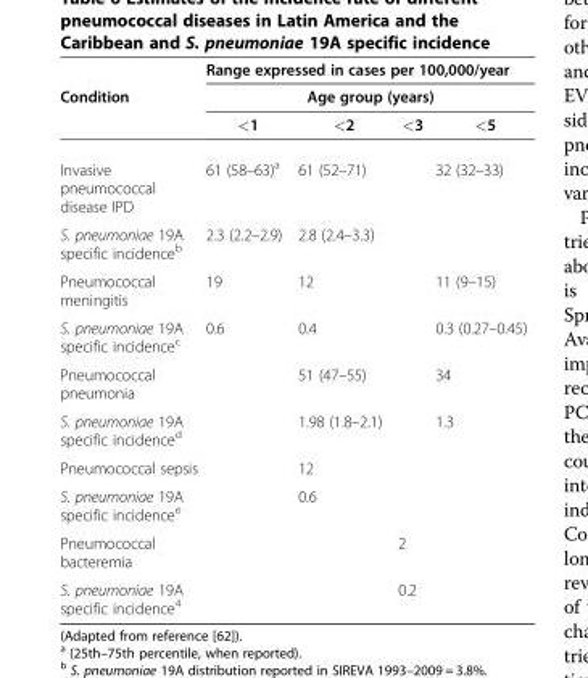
<table><thead><tr><td rowspan="3">Condition</td><td rowspan="2" colspan="4">Range expressed in cases per 100,000/year Age group (years)</td></tr><tr></tr><tr><td>&lt;1</td><td>&lt;2</td><td>&lt;3</td><td>&lt;5</td></tr></thead><tbody><tr><td>Invasive pneumococcal disease IPD</td><td>61 (58–63)<sup>a</sup></td><td>61 (52–71)</td><td></td><td>32 (32–33)</td></tr><tr><td>S. pneumoniae 19A specific incidence<sup>b</sup></td><td>2.3 (2.2–2.9)</td><td>2.8 (2.4–3.3)</td><td></td><td></td></tr><tr><td>Pneumococcal meningitis</td><td>19</td><td>12</td><td></td><td>11 (9–15)</td></tr><tr><td>S. pneumoniae 19A specific incidence<sup>c</sup></td><td>0.6</td><td>0.4</td><td></td><td>0.3 (0.27–0.45)</td></tr><tr><td>Pneumococcal pneumonia</td><td></td><td>51 (47–55)</td><td></td><td>34</td></tr><tr><td>S. pneumoniae 19A specific incidence<sup>d</sup></td><td></td><td>1.98 (1.8–2.1)</td><td></td><td>1.3</td></tr><tr><td>Pneumococcal sepsis</td><td></td><td>12</td><td></td><td></td></tr><tr><td>S. pneumoniae 19A specific incidence<sup>e</sup></td><td></td><td>0.6</td><td></td><td></td></tr><tr><td>Pneumococcal bacteremia</td><td></td><td></td><td>2</td><td></td></tr><tr><td>S. pneumoniae 19A specific incidence<sup>4</sup></td><td></td><td></td><td>0.2</td><td></td></tr></tbody></table>